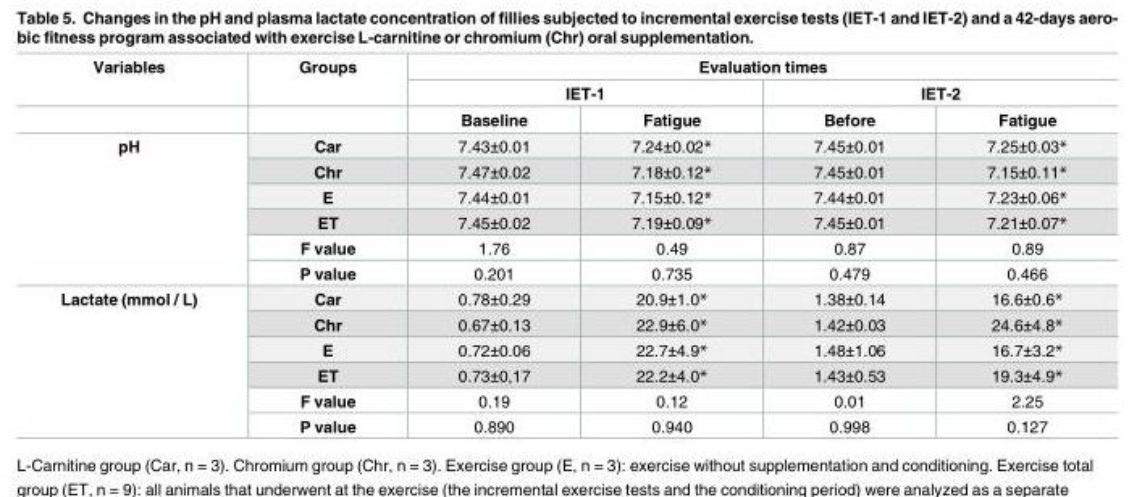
<table><thead><tr><td rowspan="3">Variables</td><td rowspan="3">Groups</td><td colspan="4">Evaluation times</td></tr><tr><td colspan="2">IET-1</td><td colspan="2">IET-2</td></tr><tr><td>Baseline</td><td>Fatigue</td><td>Before</td><td>Fatigue</td></tr></thead><tbody><tr><td rowspan="6">pH</td><td>Car</td><td>7.43±0.01</td><td>7.24±0.02*</td><td>7.45±0.01</td><td>7.25±0.03*</td></tr><tr><td>Chr</td><td>7.47±0.02</td><td>7.18±0.12*</td><td>7.45±0.01</td><td>7.15±0.11*</td></tr><tr><td>E</td><td>7.44±0.01</td><td>7.15±0.12*</td><td>7.44±0.01</td><td>7.23±0.06*</td></tr><tr><td>ET</td><td>7.45±0.02</td><td>7.19±0.09*</td><td>7.45±0.01</td><td>7.21±0.07*</td></tr><tr><td>F value</td><td>1.76</td><td>0.49</td><td>0.87</td><td>0.89</td></tr><tr><td>P value</td><td>0.201</td><td>0.735</td><td>0.479</td><td>0.466</td></tr><tr><td rowspan="6">Lactate (mmol / L)</td><td>Car</td><td>0.78±0.29</td><td>20.9±1.0*</td><td>1.38±0.14</td><td>16.6±0.6*</td></tr><tr><td>Chr</td><td>0.67±0.13</td><td>22.9±6.0*</td><td>1.42±0.03</td><td>24.6±4.8*</td></tr><tr><td>E</td><td>0.72±0.06</td><td>22.7±4.9*</td><td>1.48±1.06</td><td>16.7±3.2*</td></tr><tr><td>ET</td><td>0.73±0,17</td><td>22.2±4.0*</td><td>1.43±0.53</td><td>19.3±4.9*</td></tr><tr><td>F value</td><td>0.19</td><td>0.12</td><td>0.01</td><td>2.25</td></tr><tr><td>P value</td><td>0.890</td><td>0.940</td><td>0.998</td><td>0.127</td></tr></tbody></table>